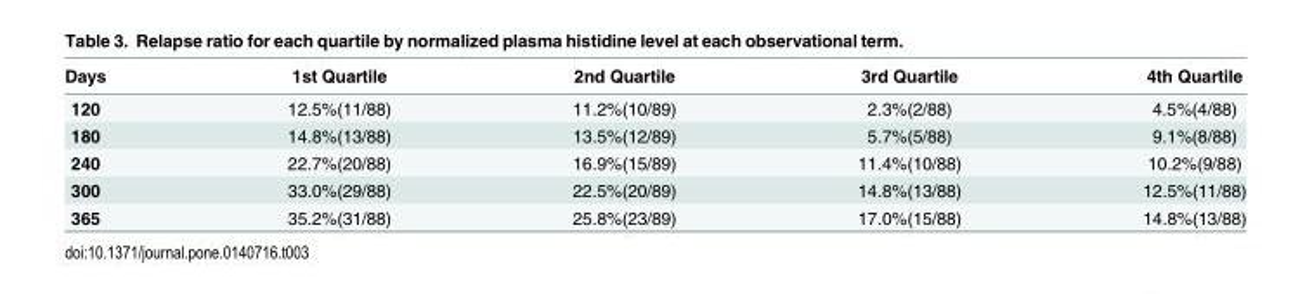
<table><thead><tr><td>Days</td><td>1st Quartile</td><td>2nd Quartile</td><td>3rd Quartile</td><td>4th Quartile</td></tr></thead><tbody><tr><td>120</td><td>12.5%(11/88)</td><td>11.2%(10/89)</td><td>2.3%(2/88)</td><td>4.5%(4/88)</td></tr><tr><td>180</td><td>14.8%(13/88)</td><td>13.5%(12/89)</td><td>5.7%(5/88)</td><td>9.1%(8/88)</td></tr><tr><td>240</td><td>22.7%(20/88)</td><td>16.9%(15/89)</td><td>11.4%(10/88)</td><td>10.2%(9/88)</td></tr><tr><td>300</td><td>33.0%(29/88)</td><td>22.5%(20/89)</td><td>14.8%(13/88)</td><td>12.5%(11/88)</td></tr><tr><td>365</td><td>35.2%(31/88)</td><td>25.8%(23/89)</td><td>17.0%(15/88)</td><td>14.8%(13/88)</td></tr></tbody></table>